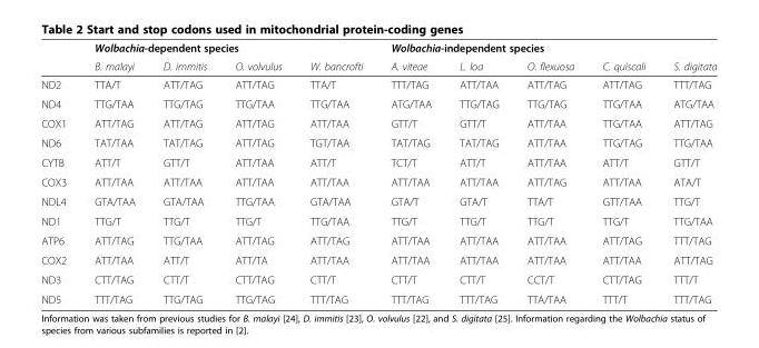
<table><thead><tr><td rowspan="2"></td><td colspan="4">Wolbachia-dependent species</td><td colspan="5">Wolbachia-independent species</td></tr><tr><td>B. malayi</td><td>D. immitis</td><td>O. volvulus</td><td>W. bancrofti</td><td>A. viteae</td><td>L. loa</td><td>O. flexuosa</td><td>C. quiscali</td><td>S. digitata</td></tr></thead><tbody><tr><td>ND2</td><td>TTA/T</td><td>ATT/TAG</td><td>ATT/TAG</td><td>TTA/T</td><td>TTT/TAG</td><td>ATT/TAA</td><td>ATT/TAG</td><td>ATT/TAG</td><td>TTT/TAG</td></tr><tr><td>ND4</td><td>TTG/TAA</td><td>TTG/TAG</td><td>TTG/TAA</td><td>TTG/TAA</td><td>ATG/TAA</td><td>TTG/TAG</td><td>TTG/TAG</td><td>TTG/TAA</td><td>ATG/TAA</td></tr><tr><td>COX1</td><td>ATT/TAG</td><td>ATT/TAG</td><td>ATT/TAG</td><td>ATT/TAA</td><td>GTT/T</td><td>GTT/T</td><td>ATT/TAA</td><td>TTG/TAA</td><td>ATT/TAG</td></tr><tr><td>ND6</td><td>TAT/TAA</td><td>TAT/TAG</td><td>ATT/TAG</td><td>TGT/TAA</td><td>TAT/TAG</td><td>TAT/TAG</td><td>ATT/TAA</td><td>TTG/TAG</td><td>TTG/TAA</td></tr><tr><td>CYTB</td><td>ATT/T</td><td>GTT/T</td><td>ATT/TAA</td><td>ATT/T</td><td>TCT/T</td><td>ATT/T</td><td>ATT/TAA</td><td>ATT/T</td><td>GTT/T</td></tr><tr><td>COX3</td><td>ATT/TAA</td><td>ATT/TAA</td><td>ATT/TAA</td><td>ATT/TAA</td><td>ATT/TAA</td><td>ATT/TAA</td><td>ATT/TAG</td><td>ATT/TAA</td><td>ATA/T</td></tr><tr><td>NDL4</td><td>GTA/TAA</td><td>GTA/TAA</td><td>TTG/TAA</td><td>GTA/TAA</td><td>GTA/T</td><td>GTA/T</td><td>TTA/T</td><td>GTT/TAA</td><td>TTG/T</td></tr><tr><td>ND1</td><td>TTG/T</td><td>TTG/T</td><td>TTG/T</td><td>TTG/TAA</td><td>TTG/T</td><td>TTG/T</td><td>TTG/T</td><td>TTG/T</td><td>TTG/TAA</td></tr><tr><td>ATP6</td><td>ATT/TAG</td><td>TTG/TAA</td><td>ATT/TAG</td><td>ATT/TAG</td><td>ATT/TAA</td><td>ATT/TAA</td><td>ATT/TAA</td><td>ATT/TAG</td><td>TTT/TAG</td></tr><tr><td>COX2</td><td>ATT/TAA</td><td>ATT/T</td><td>ATT/TA</td><td>ATT/TAA</td><td>ATT/TAA</td><td>ATT/TAA</td><td>ATT/TAA</td><td>ATT/TAA</td><td>ATT/TAG</td></tr><tr><td>ND3</td><td>CTT/TAG</td><td>CTT/T</td><td>CTT/TAG</td><td>CTT/T</td><td>CTT/T</td><td>CTT/T</td><td>CCT/T</td><td>CTT/TAG</td><td>TTT/T</td></tr><tr><td>ND5</td><td>TTT/TAG</td><td>TTG/TAG</td><td>TTG/TAG</td><td>TTT/TAG</td><td>TTT/TAG</td><td>TTT/TAG</td><td>TTA/TAA</td><td>TTT/T</td><td>TTT/TAG</td></tr></tbody></table>